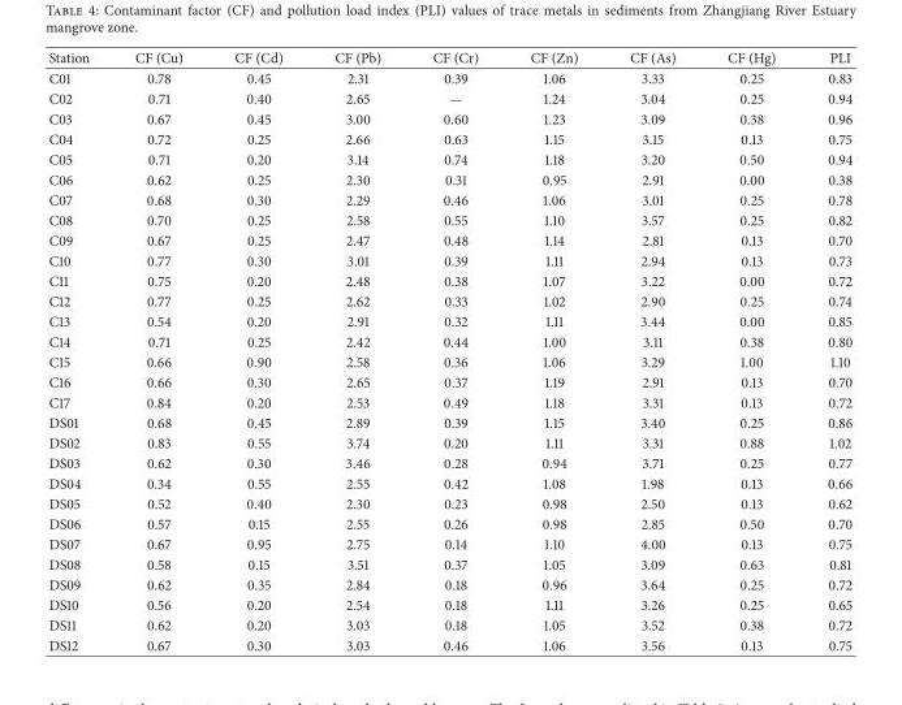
<table><thead><tr><td>Station</td><td>CF (Cu)</td><td>CF (Cd)</td><td>CF (Pb)</td><td>CF (Cr)</td><td>CF (Zn)</td><td>CF (As)</td><td>CF (Hg)</td><td>PLI</td></tr></thead><tbody><tr><td>C01</td><td>0.78</td><td>0.45</td><td>2.31</td><td>0.39</td><td>1.06</td><td>3.33</td><td>0.25</td><td>0.83</td></tr><tr><td>C02</td><td>0.71</td><td>0.40</td><td>2.65</td><td>—</td><td>1.24</td><td>3.04</td><td>0.25</td><td>0.94</td></tr><tr><td>C03</td><td>0.67</td><td>0.45</td><td>3.00</td><td>0.60</td><td>1.23</td><td>3.09</td><td>0.38</td><td>0.96</td></tr><tr><td>C04</td><td>0.72</td><td>0.25</td><td>2.66</td><td>0.63</td><td>1.15</td><td>3.15</td><td>0.13</td><td>0.75</td></tr><tr><td>C05</td><td>0.71</td><td>0.20</td><td>3.14</td><td>0.74</td><td>1.18</td><td>3.20</td><td>0.50</td><td>0.94</td></tr><tr><td>C06</td><td>0.62</td><td>0.25</td><td>2.30</td><td>0.31</td><td>0.95</td><td>2.91</td><td>0.00</td><td>0.38</td></tr><tr><td>C07</td><td>0.68</td><td>0.30</td><td>2.29</td><td>0.46</td><td>1.06</td><td>3.01</td><td>0.25</td><td>0.78</td></tr><tr><td>C08</td><td>0.70</td><td>0.25</td><td>2.58</td><td>0.55</td><td>1.10</td><td>3.57</td><td>0.25</td><td>0.82</td></tr><tr><td>C09</td><td>0.67</td><td>0.25</td><td>2.47</td><td>0.48</td><td>1.14</td><td>2.81</td><td>0.13</td><td>0.70</td></tr><tr><td>C10</td><td>0.77</td><td>0.30</td><td>3.01</td><td>0.39</td><td>1.11</td><td>2.94</td><td>0.13</td><td>0.73</td></tr><tr><td>C11</td><td>0.75</td><td>0.20</td><td>2.48</td><td>0.38</td><td>1.07</td><td>3.22</td><td>0.00</td><td>0.72</td></tr><tr><td>C12</td><td>0.77</td><td>0.25</td><td>2.62</td><td>0.33</td><td>1.02</td><td>2.90</td><td>0.25</td><td>0.74</td></tr><tr><td>C13</td><td>0.54</td><td>0.20</td><td>2.91</td><td>0.32</td><td>1.11</td><td>3.44</td><td>0.00</td><td>0.85</td></tr><tr><td>C14</td><td>0.71</td><td>0.25</td><td>2.42</td><td>0.44</td><td>1.00</td><td>3.11</td><td>0.38</td><td>0.80</td></tr><tr><td>C15</td><td>0.66</td><td>0.90</td><td>2.58</td><td>0.36</td><td>1.06</td><td>3.29</td><td>1.00</td><td>1.10</td></tr><tr><td>C16</td><td>0.66</td><td>0.30</td><td>2.65</td><td>0.37</td><td>1.19</td><td>2.91</td><td>0.13</td><td>0.70</td></tr><tr><td>C17</td><td>0.84</td><td>0.20</td><td>2.53</td><td>0.49</td><td>1.18</td><td>3.31</td><td>0.13</td><td>0.72</td></tr><tr><td>DS01</td><td>0.68</td><td>0.45</td><td>2.89</td><td>0.39</td><td>1.15</td><td>3.40</td><td>0.25</td><td>0.86</td></tr><tr><td>DS02</td><td>0.83</td><td>0.55</td><td>3.74</td><td>0.20</td><td>1.11</td><td>3.31</td><td>0.88</td><td>1.02</td></tr><tr><td>DS03</td><td>0.62</td><td>0.30</td><td>3.46</td><td>0.28</td><td>0.94</td><td>3.71</td><td>0.25</td><td>0.77</td></tr><tr><td>DS04</td><td>0.34</td><td>0.55</td><td>2.55</td><td>0.42</td><td>1.08</td><td>1.98</td><td>0.13</td><td>0.66</td></tr><tr><td>DS05</td><td>0.52</td><td>0.40</td><td>2.30</td><td>0.23</td><td>0.98</td><td>2.50</td><td>0.13</td><td>0.62</td></tr><tr><td>DS06</td><td>0.57</td><td>0.15</td><td>2.55</td><td>0.26</td><td>0.98</td><td>2.85</td><td>0.50</td><td>0.70</td></tr><tr><td>DS07</td><td>0.67</td><td>0.95</td><td>2.75</td><td>0.14</td><td>1.10</td><td>4.00</td><td>0.13</td><td>0.75</td></tr><tr><td>DS08</td><td>0.58</td><td>0.15</td><td>3.51</td><td>0.37</td><td>1.05</td><td>3.09</td><td>0.63</td><td>0.81</td></tr><tr><td>DS09</td><td>0.62</td><td>0.35</td><td>2.84</td><td>0.18</td><td>0.96</td><td>3.64</td><td>0.25</td><td>0.72</td></tr><tr><td>DS10</td><td>0.56</td><td>0.20</td><td>2.54</td><td>0.18</td><td>1.11</td><td>3.26</td><td>0.25</td><td>0.65</td></tr><tr><td>DS11</td><td>0.62</td><td>0.20</td><td>3.03</td><td>0.18</td><td>1.05</td><td>3.52</td><td>0.38</td><td>0.72</td></tr><tr><td>DS12</td><td>0.67</td><td>0.30</td><td>3.03</td><td>0.46</td><td>1.06</td><td>3.56</td><td>0.13</td><td>0.75</td></tr></tbody></table>